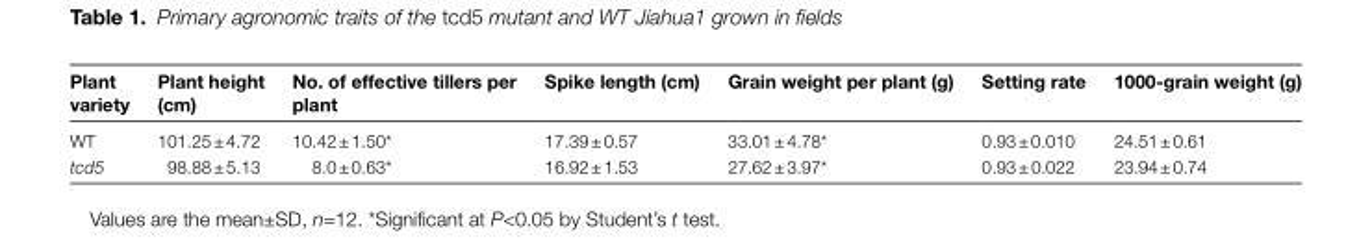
<table><thead><tr><td>Plant variety</td><td>Plant height (cm)</td><td>No. of effective tillers per plant</td><td>Spike length (cm)</td><td>Grain weight per plant (g)</td><td>Setting rate</td><td>1000-grain weight (g)</td></tr></thead><tbody><tr><td>WT</td><td>101.25 ± 4.72</td><td>10.42 ± 1.50*</td><td>17.39 ± 0.57</td><td>33.01 ± 4.78*</td><td>0.93 ± 0.010</td><td>24.51 ± 0.61</td></tr><tr><td>tcd5</td><td>98.88 ± 5.13</td><td>8.0 ± 0.63*</td><td>16.92 ± 1.53</td><td>27.62 ± 3.97*</td><td>0.93 ± 0.022</td><td>23.94 ± 0.74</td></tr></tbody></table>